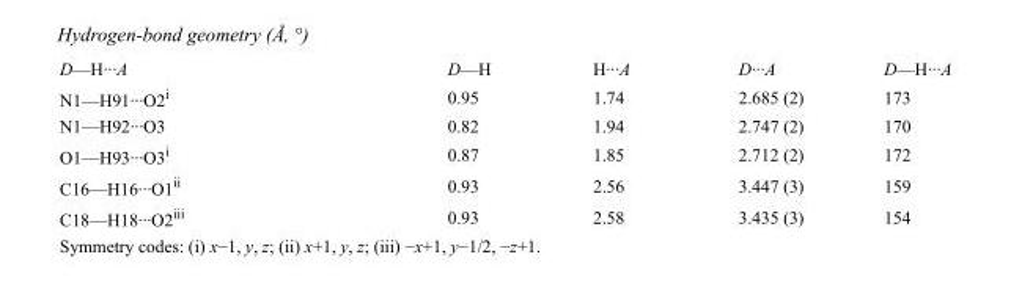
<table><tbody><tr><td>D—H···A</td><td>D—H</td><td>H···A</td><td>D···A</td><td>D—H···A</td></tr><tr><td>N1—H91···O2<sup>i</sup></td><td>0.95</td><td>1.74</td><td>2.685 (2)</td><td>173</td></tr><tr><td>N1—H92···O3</td><td>0.82</td><td>1.94</td><td>2.747 (2)</td><td>170</td></tr><tr><td>O1—H93···O3<sup>i</sup></td><td>0.87</td><td>1.85</td><td>2.712 (2)</td><td>172</td></tr><tr><td>C16—H16···O1<sup>ii</sup></td><td>0.93</td><td>2.56</td><td>3.447 (3)</td><td>159</td></tr><tr><td>C18—H18···O2<sup>iii</sup></td><td>0.93</td><td>2.58</td><td>3.435 (3)</td><td>154</td></tr></tbody></table>